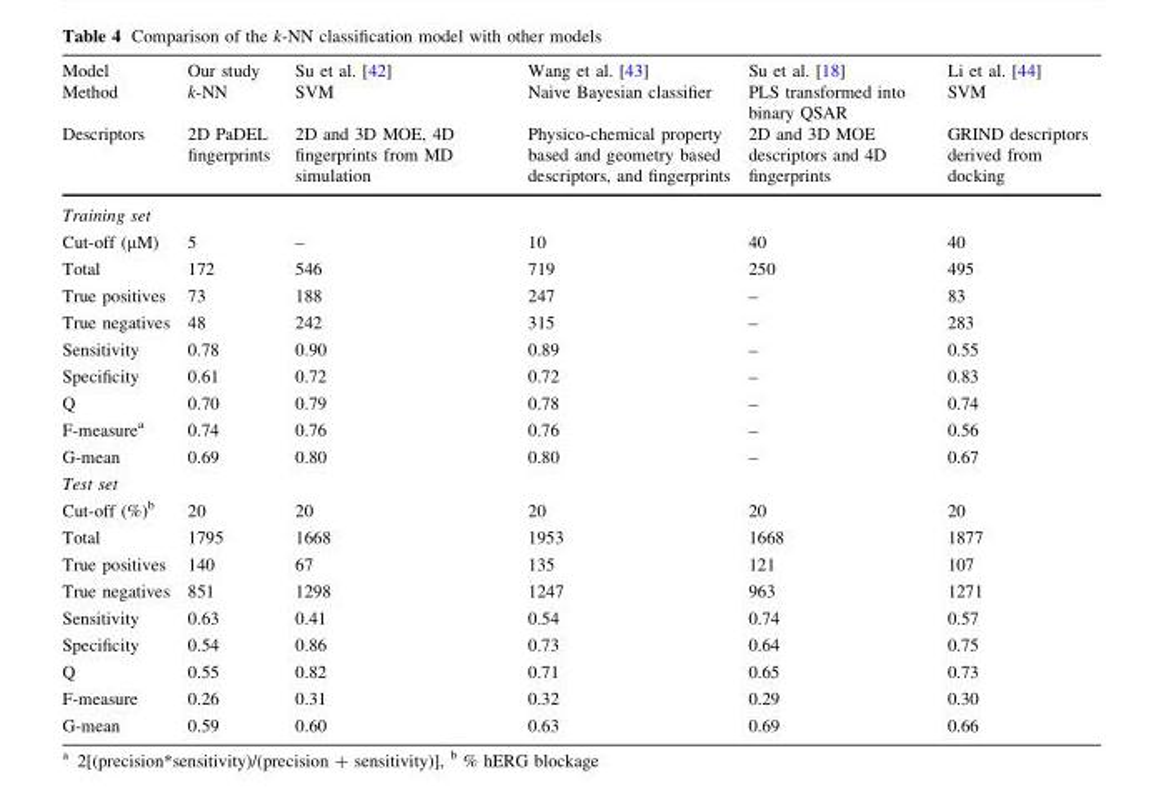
<table><thead><tr><td rowspan="3">Model Method Descriptors</td><td rowspan="3">Our study k-NN 2D PaDEL fingerprints</td><td rowspan="3">Su et al. [42] SVM 2D and 3D MOE, 4D fingerprints from MD simulation</td><td rowspan="3">Wang et al. [43] Naive Bayesian classifier Physico-chemical property based and geometry based descriptors, and fingerprints</td><td rowspan="3">Su et al. [18] PLS transformed into binary QSAR 2D and 3D MOE descriptors and 4D fingerprints</td><td rowspan="3">Li et al. [44] SVM GRIND descriptors derived from docking</td></tr><tr></tr><tr></tr></thead><tbody><tr><td colspan="6">Training set</td></tr><tr><td>Cut-off (µM)</td><td>5</td><td>–</td><td>10</td><td>40</td><td>40</td></tr><tr><td>Total</td><td>172</td><td>546</td><td>719</td><td>250</td><td>495</td></tr><tr><td>True positives</td><td>73</td><td>188</td><td>247</td><td>–</td><td>83</td></tr><tr><td>True negatives</td><td>48</td><td>242</td><td>315</td><td>–</td><td>283</td></tr><tr><td>Sensitivity</td><td>0.78</td><td>0.90</td><td>0.89</td><td>–</td><td>0.55</td></tr><tr><td>Specificity</td><td>0.61</td><td>0.72</td><td>0.72</td><td>–</td><td>0.83</td></tr><tr><td>Q</td><td>0.70</td><td>0.79</td><td>0.78</td><td>–</td><td>0.74</td></tr><tr><td>F-measure<sup>a</sup></td><td>0.74</td><td>0.76</td><td>0.76</td><td>–</td><td>0.56</td></tr><tr><td>G-mean</td><td>0.69</td><td>0.80</td><td>0.80</td><td>–</td><td>0.67</td></tr><tr><td colspan="6">Test set</td></tr><tr><td>Cut-off (%)<sup>b</sup></td><td>20</td><td>20</td><td>20</td><td>20</td><td>20</td></tr><tr><td>Total</td><td>1795</td><td>1668</td><td>1953</td><td>1668</td><td>1877</td></tr><tr><td>True positives</td><td>140</td><td>67</td><td>135</td><td>121</td><td>107</td></tr><tr><td>True negatives</td><td>851</td><td>1298</td><td>1247</td><td>963</td><td>1271</td></tr><tr><td>Sensitivity</td><td>0.63</td><td>0.41</td><td>0.54</td><td>0.74</td><td>0.57</td></tr><tr><td>Specificity</td><td>0.54</td><td>0.86</td><td>0.73</td><td>0.64</td><td>0.75</td></tr><tr><td>Q</td><td>0.55</td><td>0.82</td><td>0.71</td><td>0.65</td><td>0.73</td></tr><tr><td>F-measure</td><td>0.26</td><td>0.31</td><td>0.32</td><td>0.29</td><td>0.30</td></tr><tr><td>G-mean</td><td>0.59</td><td>0.60</td><td>0.63</td><td>0.69</td><td>0.66</td></tr></tbody></table>